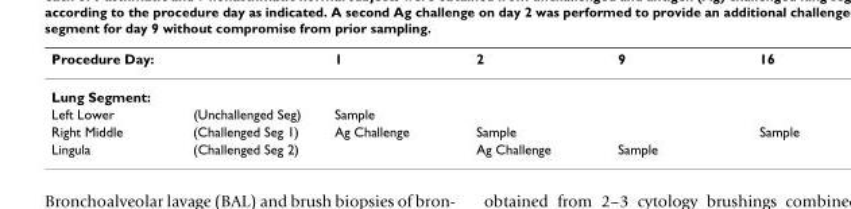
<table><thead><tr><td>Procedure Day:</td><td></td><td>1</td><td>2</td><td>9</td><td>16</td></tr></thead><tbody><tr><td colspan="6">Lung Segment:</td></tr><tr><td>Left Lower</td><td>(Unchallenged Seg)</td><td>Sample</td><td></td><td></td><td></td></tr><tr><td>Right Middle</td><td>(Challenged Seg 1)</td><td>Ag Challenge</td><td>Sample</td><td></td><td>Sample</td></tr><tr><td>Lingula</td><td>(Challenged Seg 2)</td><td></td><td>Ag Challenge</td><td>Sample</td><td></td></tr></tbody></table>